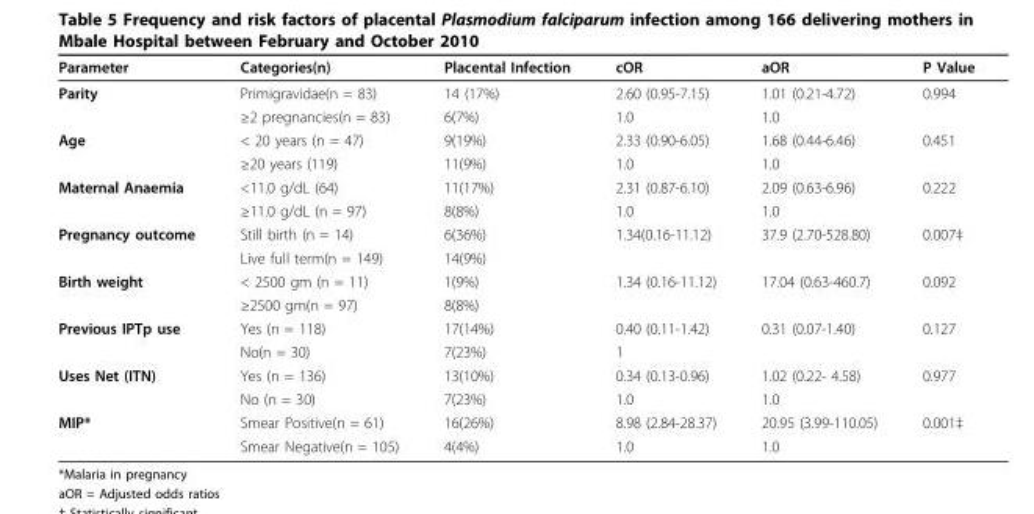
<table><thead><tr><td>Parameter</td><td>Categories(n)</td><td>Placental Infection</td><td>cOR</td><td>aOR</td><td>P Value</td></tr></thead><tbody><tr><td rowspan="2">Parity</td><td>Primigravidae(n = 83)</td><td>14 (17%)</td><td>2.60 (0.95-7.15)</td><td>1.01 (0.21-4.72)</td><td>0.994</td></tr><tr><td>≥2 pregnancies(n = 83)</td><td>6(7%)</td><td>1.0</td><td>1.0</td><td></td></tr><tr><td rowspan="2">Age</td><td>&lt; 20 years (n = 47)</td><td>9(19%)</td><td>2.33 (0.90-6.05)</td><td>1.68 (0.44-6.46)</td><td>0.451</td></tr><tr><td>≥20 years (119)</td><td>11(9%)</td><td>1.0</td><td>1.0</td><td></td></tr><tr><td rowspan="2">Maternal Anaemia</td><td>&lt;11.0 g/dL (64)</td><td>11(17%)</td><td>2.31 (0.87-6.10)</td><td>2.09 (0.63-6.96)</td><td>0.222</td></tr><tr><td>≥11.0 g/dL (n = 97)</td><td>8(8%)</td><td>1.0</td><td>1.0</td><td></td></tr><tr><td rowspan="2">Pregnancy outcome</td><td>Still birth (n = 14)</td><td>6(36%)</td><td>1.34(0.16-11.12)</td><td>37.9 (2.70-528.80)</td><td>0.007‡</td></tr><tr><td>Live full term(n = 149)</td><td>14(9%)</td><td></td><td></td><td></td></tr><tr><td rowspan="2">Birth weight</td><td>&lt; 2500 gm (n = 11)</td><td>1(9%)</td><td>1.34 (0.16-11.12)</td><td>17.04 (0.63-460.7)</td><td>0.092</td></tr><tr><td>≥2500 gm(n = 97)</td><td>8(8%)</td><td></td><td></td><td></td></tr><tr><td rowspan="2">Previous IPTp use</td><td>Yes (n = 118)</td><td>17(14%)</td><td>0.40 (0.11-1.42)</td><td>0.31 (0.07-1.40)</td><td>0.127</td></tr><tr><td>No(n = 30)</td><td>7(23%)</td><td>1</td><td></td><td></td></tr><tr><td rowspan="2">Uses Net (ITN)</td><td>Yes (n = 136)</td><td>13(10%)</td><td>0.34 (0.13-0.96)</td><td>1.02 (0.22- 4.58)</td><td>0.977</td></tr><tr><td>No (n = 30)</td><td>7(23%)</td><td>1.0</td><td>1.0</td><td></td></tr><tr><td rowspan="2">MIP*</td><td>Smear Positive(n = 61)</td><td>16(26%)</td><td>8.98 (2.84-28.37)</td><td>20.95 (3.99-110.05)</td><td>0.001‡</td></tr><tr><td>Smear Negative(n = 105)</td><td>4(4%)</td><td>1.0</td><td>1.0</td><td></td></tr></tbody></table>